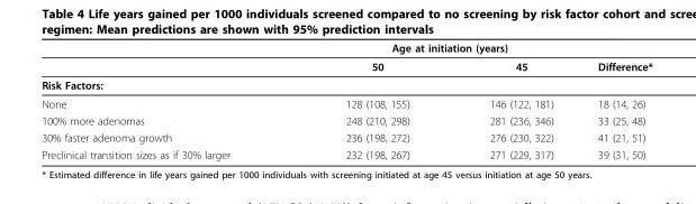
<table><thead><tr><td rowspan="2"></td><td colspan="2">Age at initiation (years)</td><td rowspan="2">Difference*</td></tr><tr><td>50</td><td>45</td></tr></thead><tbody><tr><td colspan="4">Risk Factors:</td></tr><tr><td>None</td><td>128 (108, 155)</td><td>146 (122, 181)</td><td>18 (14, 26)</td></tr><tr><td>100% more adenomas</td><td>248 (210, 298)</td><td>281 (236, 346)</td><td>33 (25, 48)</td></tr><tr><td>30% faster adenoma growth</td><td>236 (198, 272)</td><td>276 (230, 322)</td><td>41 (21, 51)</td></tr><tr><td>Preclinical transition sizes as if 30% larger</td><td>232 (198, 267)</td><td>271 (229, 317)</td><td>39 (31, 50)</td></tr></tbody></table>